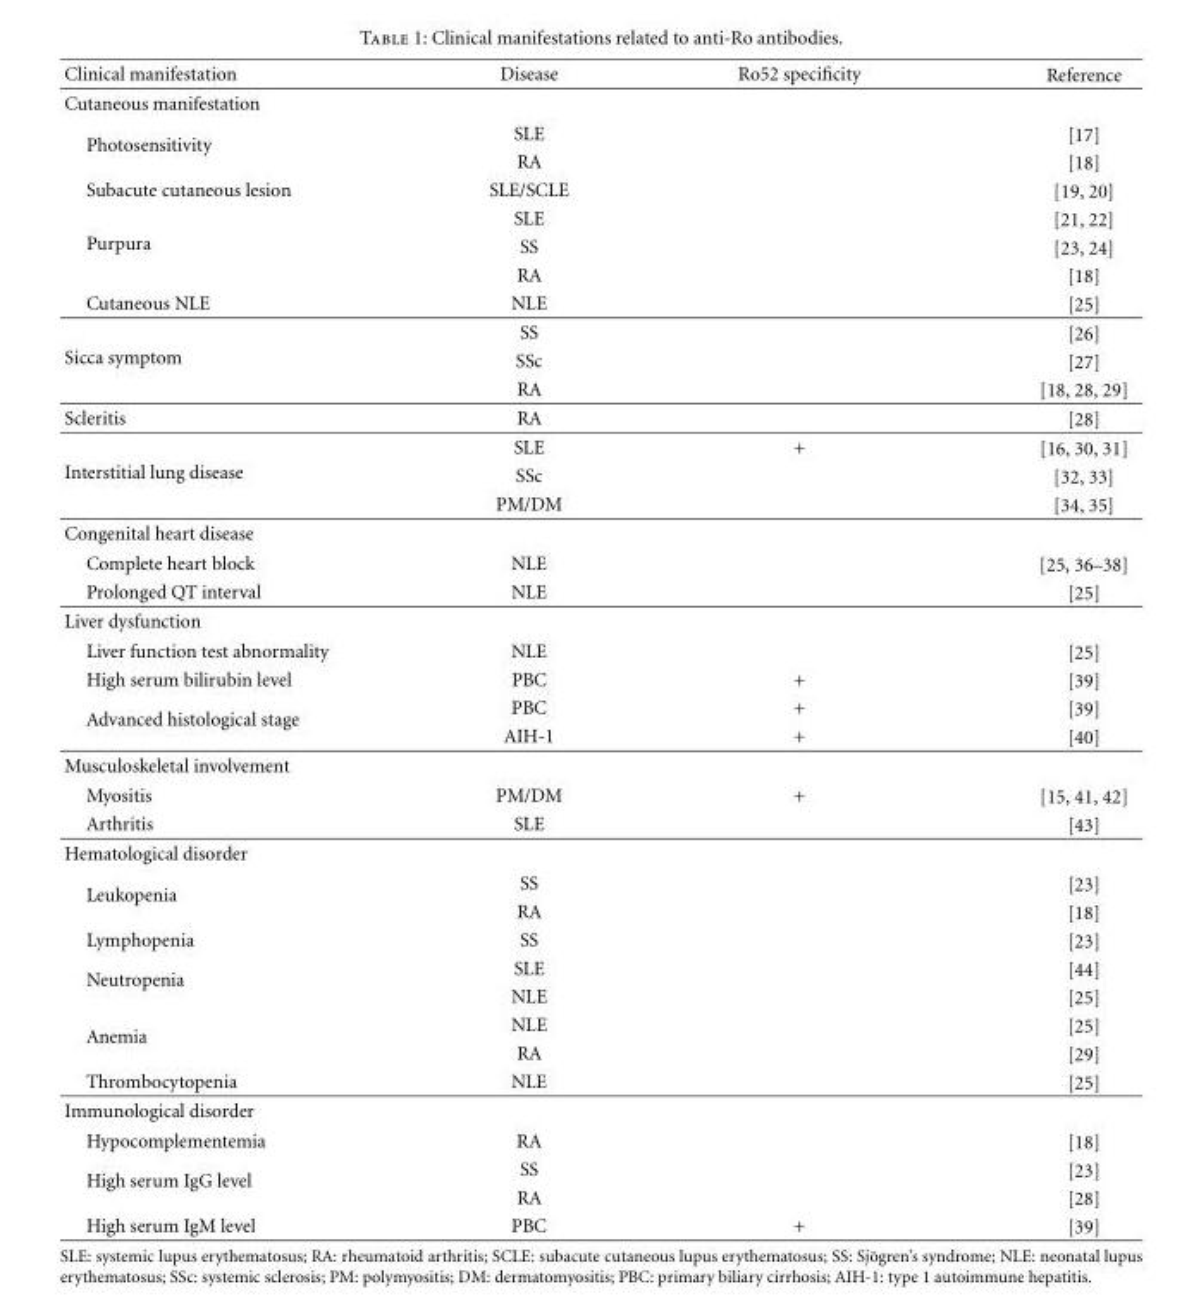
<table><thead><tr><td>Clinical manifestation</td><td>Disease</td><td>Ro52 specificity</td><td>Reference</td></tr></thead><tbody><tr><td colspan="4">Cutaneous manifestation</td></tr><tr><td rowspan="2">Photosensitivity</td><td>SLE</td><td></td><td>[17]</td></tr><tr><td>RA</td><td></td><td>[18]</td></tr><tr><td>Subacute cutaneous lesion</td><td>SLE/SCLE</td><td></td><td>[19, 20]</td></tr><tr><td rowspan="3">Purpura</td><td>SLE</td><td></td><td>[21, 22]</td></tr><tr><td>SS</td><td></td><td>[23, 24]</td></tr><tr><td>RA</td><td></td><td>[18]</td></tr><tr><td>Cutaneous NLE</td><td>NLE</td><td></td><td>[25]</td></tr><tr><td rowspan="3">Sicca symptom</td><td>SS</td><td></td><td>[26]</td></tr><tr><td>SSc</td><td></td><td>[27]</td></tr><tr><td>RA</td><td></td><td>[18, 28, 29]</td></tr><tr><td>Scleritis</td><td>RA</td><td></td><td>[28]</td></tr><tr><td rowspan="3">Interstitial lung disease</td><td>SLE</td><td>+</td><td>[16, 30, 31]</td></tr><tr><td>SSc</td><td></td><td>[32, 33]</td></tr><tr><td>PM/DM</td><td></td><td>[34, 35]</td></tr><tr><td colspan="4">Congenital heart disease</td></tr><tr><td>Complete heart block</td><td>NLE</td><td></td><td>[25, 36–38]</td></tr><tr><td>Prolonged QT interval</td><td>NLE</td><td></td><td>[25]</td></tr><tr><td colspan="4">Liver dysfunction</td></tr><tr><td>Liver function test abnormality</td><td>NLE</td><td></td><td>[25]</td></tr><tr><td>High serum bilirubin level</td><td>PBC</td><td>+</td><td>[39]</td></tr><tr><td rowspan="2">Advanced histological stage</td><td>PBC</td><td>+</td><td>[39]</td></tr><tr><td>AIH-1</td><td>+</td><td>[40]</td></tr><tr><td colspan="4">Musculoskeletal involvement</td></tr><tr><td>Myositis</td><td>PM/DM</td><td>+</td><td>[15, 41, 42]</td></tr><tr><td>Arthritis</td><td>SLE</td><td></td><td>[43]</td></tr><tr><td colspan="4">Hematological disorder</td></tr><tr><td rowspan="2">Leukopenia</td><td>SS</td><td></td><td>[23]</td></tr><tr><td>RA</td><td></td><td>[18]</td></tr><tr><td>Lymphopenia</td><td>SS</td><td></td><td>[23]</td></tr><tr><td rowspan="2">Neutropenia</td><td>SLE</td><td></td><td>[44]</td></tr><tr><td>NLE</td><td></td><td>[25]</td></tr><tr><td rowspan="2">Anemia</td><td>NLE</td><td></td><td>[25]</td></tr><tr><td>RA</td><td></td><td>[29]</td></tr><tr><td>Thrombocytopenia</td><td>NLE</td><td></td><td>[25]</td></tr><tr><td colspan="4">Immunological disorder</td></tr><tr><td>Hypocomplementemia</td><td>RA</td><td></td><td>[18]</td></tr><tr><td rowspan="2">High serum IgG level</td><td>SS</td><td></td><td>[23]</td></tr><tr><td>RA</td><td></td><td>[28]</td></tr><tr><td>High serum IgM level</td><td>PBC</td><td>+</td><td>[39]</td></tr></tbody></table>